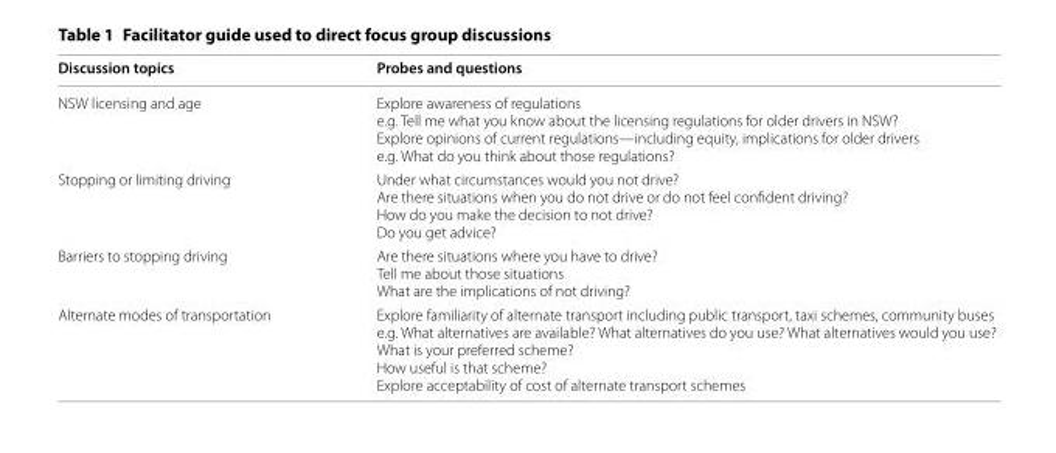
<table><thead><tr><td>Discussion topics</td><td>Probes and questions</td></tr></thead><tbody><tr><td>NSW licensing and age</td><td>Explore awareness of regulations e.g. Tell me what you know about the licensing regulations for older drivers in NSW? Explore opinions of current regulations—including equity, implications for older drivers e.g. What do you think about those regulations?</td></tr><tr><td>Stopping or limiting driving</td><td>Under what circumstances would you not drive? Are there situations when you do not drive or do not feel confident driving? How do you make the decision to not drive? Do you get advice?</td></tr><tr><td>Barriers to stopping driving</td><td>Are there situations where you have to drive? Tell me about those situations What are the implications of not driving?</td></tr><tr><td>Alternate modes of transportation</td><td>Explore familiarity of alternate transport including public transport, taxi schemes, community buses e.g. What alternatives are available? What alternatives do you use? What alternatives would you use? What is your preferred scheme? How useful is that scheme? Explore acceptability of cost of alternate transport schemes</td></tr></tbody></table>